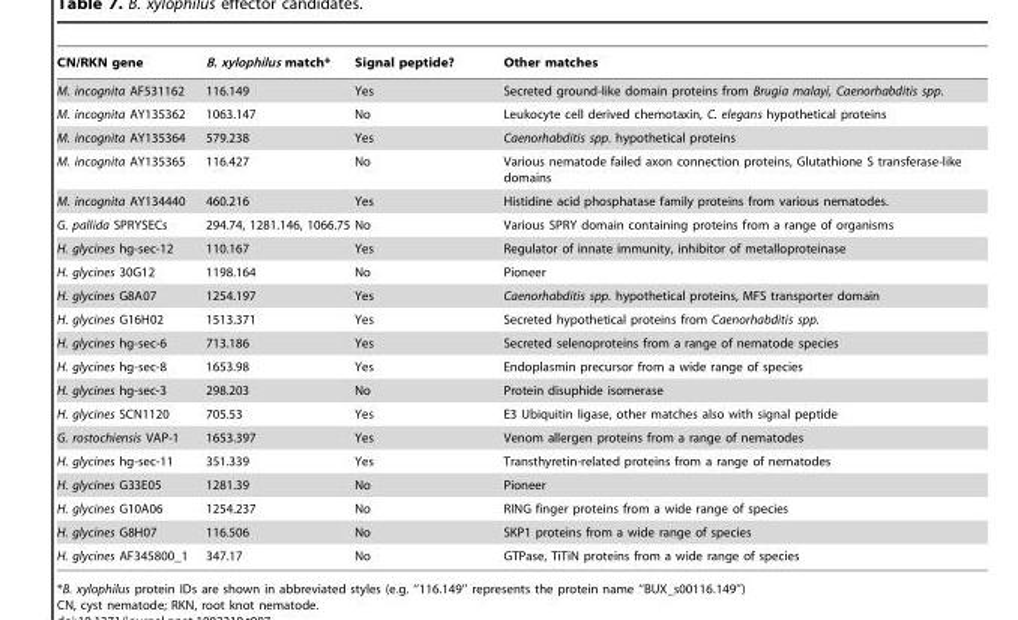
<table><thead><tr><td>CN/RKN gene</td><td>B. xylophilus match*</td><td>Signal peptide?</td><td>Other matches</td></tr></thead><tbody><tr><td>M. incognita AF531162</td><td>116.149</td><td>Yes</td><td>Secreted ground-like domain proteins from Brugia malayi, Caenorhabditis spp.</td></tr><tr><td>M. incognita AY135362</td><td>1063.147</td><td>No</td><td>Leukocyte cell derived chemotaxin, C. elegans hypothetical proteins</td></tr><tr><td>M. incognita AY135364</td><td>579.238</td><td>Yes</td><td>Caenorhabditis spp. hypothetical proteins</td></tr><tr><td>M. incognita AY135365</td><td>116.427</td><td>No</td><td>Various nematode failed axon connection proteins, Glutathione S transferase-like domains</td></tr><tr><td>M. incognita AY134440</td><td>460.216</td><td>Yes</td><td>Histidine acid phosphatase family proteins from various nematodes.</td></tr><tr><td>G. pallida SPRYSECs</td><td>294.74, 1281.146, 1066.75</td><td>No</td><td>Various SPRY domain containing proteins from a range of organisms</td></tr><tr><td>H. glycines hg-sec-12</td><td>110.167</td><td>Yes</td><td>Regulator of innate immunity, inhibitor of metalloproteinase</td></tr><tr><td>H. glycines 30G12</td><td>1198.164</td><td>No</td><td>Pioneer</td></tr><tr><td>H. glycines G8A07</td><td>1254.197</td><td>Yes</td><td>Caenorhabditis spp. hypothetical proteins, MFS transporter domain</td></tr><tr><td>H. glycines G16H02</td><td>1513.371</td><td>Yes</td><td>Secreted hypothetical proteins from Caenorhabditis spp.</td></tr><tr><td>H. glycines hg-sec-6</td><td>713.186</td><td>Yes</td><td>Secreted selenoproteins from a range of nematode species</td></tr><tr><td>H. glycines hg-sec-8</td><td>1653.98</td><td>Yes</td><td>Endoplasmin precursor from a wide range of species</td></tr><tr><td>H. glycines hg-sec-3</td><td>298.203</td><td>No</td><td>Protein disuphide isomerase</td></tr><tr><td>H. glycines SCN1120</td><td>705.53</td><td>Yes</td><td>E3 Ubiquitin ligase, other matches also with signal peptide</td></tr><tr><td>G. rostochiensis VAP-1</td><td>1653.397</td><td>Yes</td><td>Venom allergen proteins from a range of nematodes</td></tr><tr><td>H. glycines hg-sec-11</td><td>351.339</td><td>Yes</td><td>Transthyretin-related proteins from a range of nematodes</td></tr><tr><td>H. glycines G33E05</td><td>1281.39</td><td>No</td><td>Pioneer</td></tr><tr><td>H. glycines G10A06</td><td>1254.237</td><td>No</td><td>RING finger proteins from a wide range of species</td></tr><tr><td>H. glycines G8H07</td><td>116.506</td><td>No</td><td>SKP1 proteins from a wide range of species</td></tr><tr><td>H. glycines AF345800_1</td><td>347.17</td><td>No</td><td>GTPase, TiTiN proteins from a wide range of species</td></tr></tbody></table>